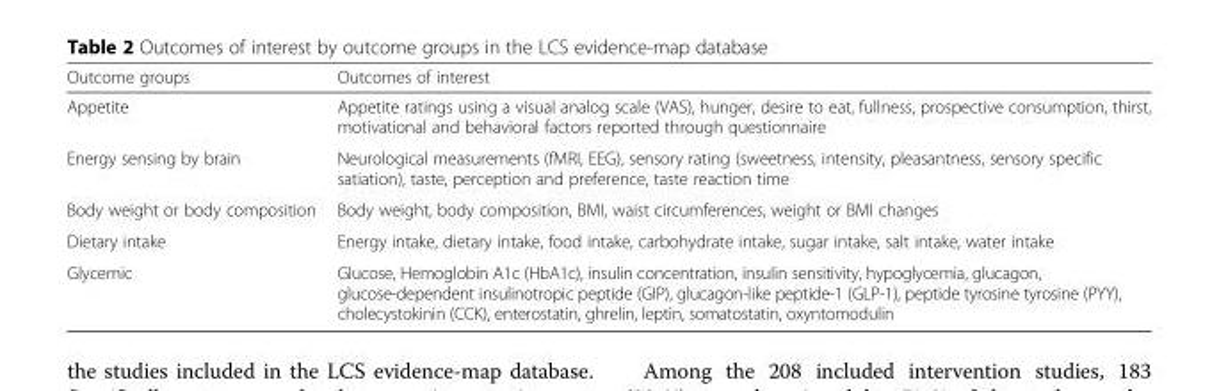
<table><thead><tr><td>Outcome groups</td><td>Outcomes of interest</td></tr></thead><tbody><tr><td>Appetite</td><td>Appetite ratings using a visual analog scale (VAS), hunger, desire to eat, fullness, prospective consumption, thirst, motivational and behavioral factors reported through questionnaire</td></tr><tr><td>Energy sensing by brain</td><td>Neurological measurements (fMRI, EEG), sensory rating (sweetness, intensity, pleasantness, sensory specific satiation), taste, perception and preference, taste reaction time</td></tr><tr><td>Body weight or body composition</td><td>Body weight, body composition, BMI, waist circumferences, weight or BMI changes</td></tr><tr><td>Dietary intake</td><td>Energy intake, dietary intake, food intake, carbohydrate intake, sugar intake, salt intake, water intake</td></tr><tr><td>Glycemic</td><td>Glucose, Hemoglobin A1c (HbA1c), insulin concentration, insulin sensitivity, hypoglycemia, glucagon, glucose-dependent insulinotropic peptide (GIP), glucagon-like peptide-1 (GLP-1), peptide tyrosine tyrosine (PYY), cholecystokinin (CCK), enterostatin, ghrelin, leptin, somatostatin, oxyntomodulin</td></tr></tbody></table>